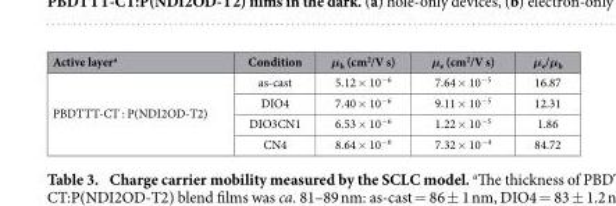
<table><thead><tr><td>Active layer<sup>a</sup></td><td>Condition</td><td>μ<sub>h</sub> (cm<sup>2</sup>/V s)</td><td>μ<sub>e</sub> (cm<sup>2</sup>/V s)</td><td>μ<sub>e</sub>/μ<sub>h</sub></td></tr></thead><tbody><tr><td rowspan="4">PBDTTT-CT : P(NDI2OD-T2)</td><td>as-cast</td><td>5.12 × 10<sup>−6</sup></td><td>7.64 × 10<sup>−5</sup></td><td>16.87</td></tr><tr><td>DIO4</td><td>7.40 × 10<sup>−6</sup></td><td>9.11 × 10<sup>−5</sup></td><td>12.31</td></tr><tr><td>DIO3CN1</td><td>6.53 × 10<sup>−6</sup></td><td>1.22 × 10<sup>−5</sup></td><td>1.86</td></tr><tr><td>CN4</td><td>8.64 × 10<sup>−6</sup></td><td>7.32 × 10<sup>−4</sup></td><td>84.72</td></tr></tbody></table>